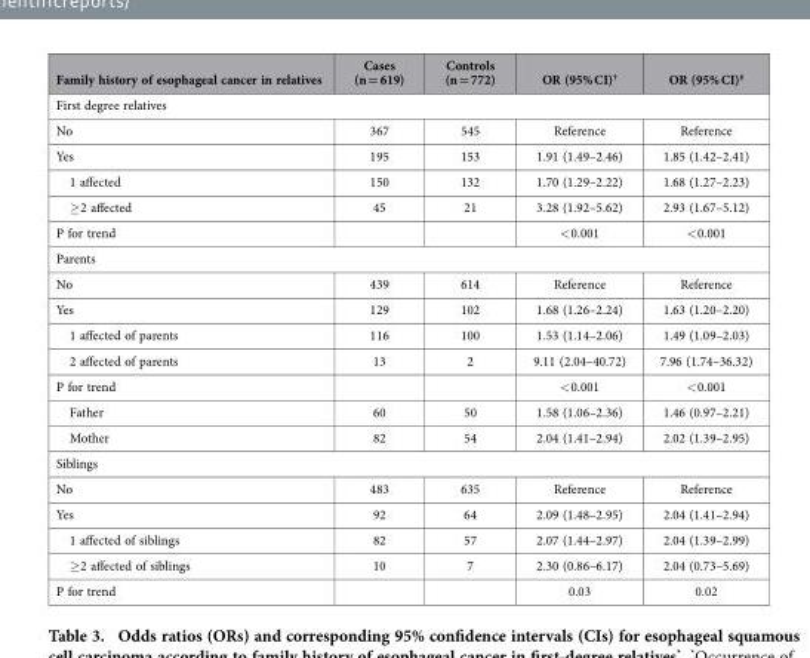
<table><thead><tr><td>Family history of esophageal cancer in relatives</td><td>Cases (n = 619)</td><td>Controls (n = 772)</td><td>OR (95% CI)†</td><td>OR (95% CI)‡</td></tr></thead><tbody><tr><td colspan="5">First degree relatives</td></tr><tr><td>No</td><td>367</td><td>545</td><td>Reference</td><td>Reference</td></tr><tr><td>Yes</td><td>195</td><td>153</td><td>1.91 (1.49–2.46)</td><td>1.85 (1.42–2.41)</td></tr><tr><td>1 affected</td><td>150</td><td>132</td><td>1.70 (1.29–2.22)</td><td>1.68 (1.27–2.23)</td></tr><tr><td>≥ 2 affected</td><td>45</td><td>21</td><td>3.28 (1.92–5.62)</td><td>2.93 (1.67–5.12)</td></tr><tr><td>P for trend</td><td></td><td></td><td>&lt; 0.001</td><td>&lt; 0.001</td></tr><tr><td colspan="5">Parents</td></tr><tr><td>No</td><td>439</td><td>614</td><td>Reference</td><td>Reference</td></tr><tr><td>Yes</td><td>129</td><td>102</td><td>1.68 (1.26–2.24)</td><td>1.63 (1.20–2.20)</td></tr><tr><td>1 affected of parents</td><td>116</td><td>100</td><td>1.53 (1.14–2.06)</td><td>1.49 (1.09–2.03)</td></tr><tr><td>2 affected of parents</td><td>13</td><td>2</td><td>9.11 (2.04–40.72)</td><td>7.96 (1.74–36.32)</td></tr><tr><td>P for trend</td><td></td><td></td><td>&lt; 0.001</td><td>&lt; 0.001</td></tr><tr><td>Father</td><td>60</td><td>50</td><td>1.58 (1.06–2.36)</td><td>1.46 (0.97–2.21)</td></tr><tr><td>Mother</td><td>82</td><td>54</td><td>2.04 (1.41–2.94)</td><td>2.02 (1.39–2.95)</td></tr><tr><td colspan="5">Siblings</td></tr><tr><td>No</td><td>483</td><td>635</td><td>Reference</td><td>Reference</td></tr><tr><td>Yes</td><td>92</td><td>64</td><td>2.09 (1.48–2.95)</td><td>2.04 (1.41–2.94)</td></tr><tr><td>1 affected of siblings</td><td>82</td><td>57</td><td>2.07 (1.44–2.97)</td><td>2.04 (1.39–2.99)</td></tr><tr><td>≥ 2 affected of siblings</td><td>10</td><td>7</td><td>2.30 (0.86–6.17)</td><td>2.04 (0.73–5.69)</td></tr><tr><td>P for trend</td><td></td><td></td><td>0.03</td><td>0.02</td></tr></tbody></table>